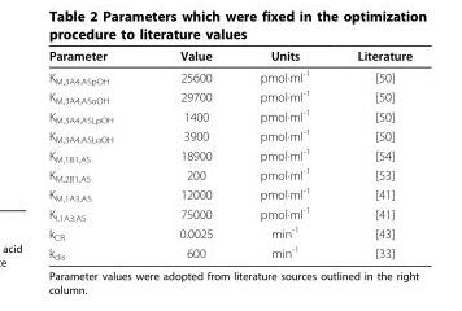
<table><thead><tr><td>Parameter</td><td>Value</td><td>Units</td><td>Literature</td></tr></thead><tbody><tr><td>K<sub>M,3A4,ASpOH</sub></td><td>25600</td><td>pmol·ml<sup>-1</sup></td><td>[50]</td></tr><tr><td>K<sub>M,3A4,ASoOH</sub></td><td>29700</td><td>pmol·ml<sup>-1</sup></td><td>[50]</td></tr><tr><td>K<sub>M,3A4,ASLpOH</sub></td><td>1400</td><td>pmol·ml<sup>-1</sup></td><td>[50]</td></tr><tr><td>K<sub>M,3A4,ASLoOH</sub></td><td>3900</td><td>pmol·ml<sup>-1</sup></td><td>[50]</td></tr><tr><td>K<sub>M,1B1,AS</sub></td><td>18900</td><td>pmol·ml<sup>-1</sup></td><td>[54]</td></tr><tr><td>K<sub>M,2B1,AS</sub></td><td>200</td><td>pmol·ml<sup>-1</sup></td><td>[53]</td></tr><tr><td>K<sub>M,1A3,AS</sub></td><td>12000</td><td>pmol·ml<sup>-1</sup></td><td>[41]</td></tr><tr><td>K<sub>I,1A3,AS</sub></td><td>75000</td><td>pmol·ml<sup>-1</sup></td><td>[41]</td></tr><tr><td>k<sub>CR</sub></td><td>0.0025</td><td>min<sup>-1</sup></td><td>[43]</td></tr><tr><td>k<sub>dis</sub></td><td>600</td><td>min<sup>-1</sup></td><td>[33]</td></tr></tbody></table>